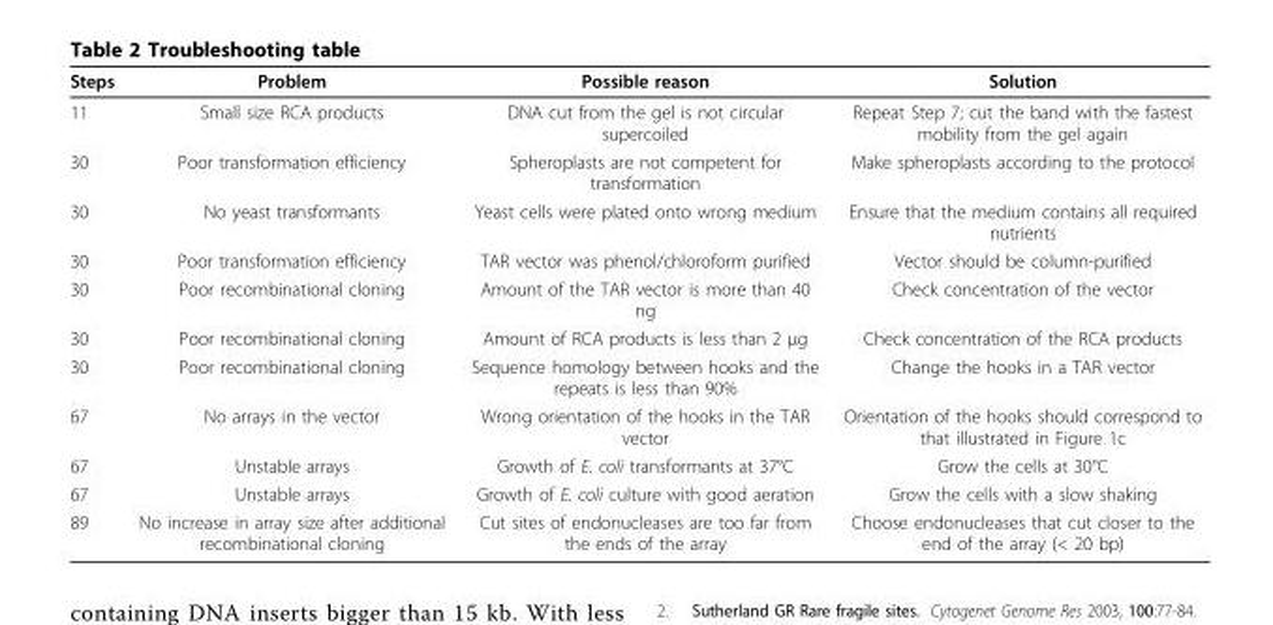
<table><thead><tr><td>Steps</td><td>Problem</td><td>Possible reason</td><td>Solution</td></tr></thead><tbody><tr><td>11</td><td>Small size RCA products</td><td>DNA cut from the gel is not circular supercoiled</td><td>Repeat Step 7; cut the band with the fastest mobility from the gel again</td></tr><tr><td>30</td><td>Poor transformation efficiency</td><td>Spheroplasts are not competent for transformation</td><td>Make spheroplasts according to the protocol</td></tr><tr><td>30</td><td>No yeast transformants</td><td>Yeast cells were plated onto wrong medium</td><td>Ensure that the medium contains all required nutrients</td></tr><tr><td>30</td><td>Poor transformation efficiency</td><td>TAR vector was phenol/chloroform purified</td><td>Vector should be column-purified</td></tr><tr><td>30</td><td>Poor recombinational cloning</td><td>Amount of the TAR vector is more than 40 ng</td><td>Check concentration of the vector</td></tr><tr><td>30</td><td>Poor recombinational cloning</td><td>Amount of RCA products is less than 2 μg</td><td>Check concentration of the RCA products</td></tr><tr><td>30</td><td>Poor recombinational cloning</td><td>Sequence homology between hooks and the repeats is less than 90%</td><td>Change the hooks in a TAR vector</td></tr><tr><td>67</td><td>No arrays in the vector</td><td>Wrong orientation of the hooks in the TAR vector</td><td>Orientation of the hooks should correspond to that illustrated in Figure 1c</td></tr><tr><td>67</td><td>Unstable arrays</td><td>Growth of E. coli transformants at 37°C</td><td>Grow the cells at 30°C</td></tr><tr><td>67</td><td>Unstable arrays</td><td>Growth of E. coli culture with good aeration</td><td>Grow the cells with a slow shaking</td></tr><tr><td>89</td><td>No increase in array size after additional recombinational cloning</td><td>Cut sites of endonucleases are too far from the ends of the array</td><td>Choose endonucleases that cut closer to the end of the array (&lt; 20 bp)</td></tr></tbody></table>